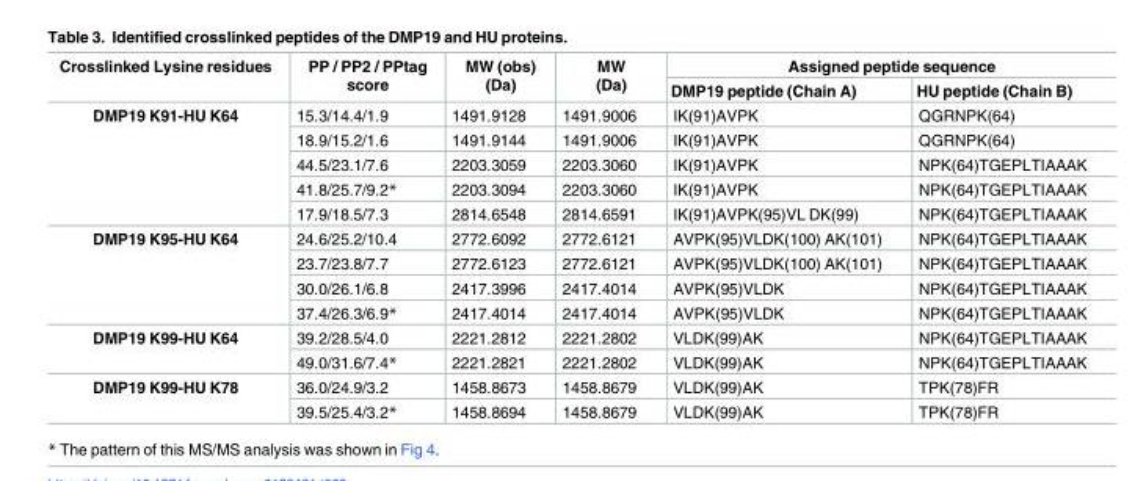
<table><thead><tr><td rowspan="2">Crosslinked Lysine residues</td><td rowspan="2">PP / PP2 / PPtag score</td><td rowspan="2">MW (obs) (Da)</td><td rowspan="2">MW (Da)</td><td colspan="2">Assigned peptide sequence</td></tr><tr><td>DMP19 peptide (Chain A)</td><td>HU peptide (Chain B)</td></tr></thead><tbody><tr><td rowspan="5">DMP19 K91-HU K64</td><td>15.3/14.4/1.9</td><td>1491.9128</td><td>1491.9006</td><td>IK(91)AVPK</td><td>QGRNPK(64)</td></tr><tr><td>18.9/15.2/1.6</td><td>1491.9144</td><td>1491.9006</td><td>IK(91)AVPK</td><td>QGRNPK(64)</td></tr><tr><td>44.5/23.1/7.6</td><td>2203.3059</td><td>2203.3060</td><td>IK(91)AVPK</td><td>NPK(64)TGEPLTIAAAK</td></tr><tr><td>41.8/25.7/9.2*</td><td>2203.3094</td><td>2203.3060</td><td>IK(91)AVPK</td><td>NPK(64)TGEPLTIAAAK</td></tr><tr><td>17.9/18.5/7.3</td><td>2814.6548</td><td>2814.6591</td><td>IK(91)AVPK(95)VL DK(99)</td><td>NPK(64)TGEPLTIAAAK</td></tr><tr><td rowspan="4">DMP19 K95-HU K64</td><td>24.6/25.2/10.4</td><td>2772.6092</td><td>2772.6121</td><td>AVPK(95)VLDK(100) AK(101)</td><td>NPK(64)TGEPLTIAAAK</td></tr><tr><td>23.7/23.8/7.7</td><td>2772.6123</td><td>2772.6121</td><td>AVPK(95)VLDK(100) AK(101)</td><td>NPK(64)TGEPLTIAAAK</td></tr><tr><td>30.0/26.1/6.8</td><td>2417.3996</td><td>2417.4014</td><td>AVPK(95)VLDK</td><td>NPK(64)TGEPLTIAAAK</td></tr><tr><td>37.4/26.3/6.9*</td><td>2417.4014</td><td>2417.4014</td><td>AVPK(95)VLDK</td><td>NPK(64)TGEPLTIAAAK</td></tr><tr><td rowspan="2">DMP19 K99-HU K64</td><td>39.2/28.5/4.0</td><td>2221.2812</td><td>2221.2802</td><td>VLDK(99)AK</td><td>NPK(64)TGEPLTIAAAK</td></tr><tr><td>49.0/31.6/7.4*</td><td>2221.2821</td><td>2221.2802</td><td>VLDK(99)AK</td><td>NPK(64)TGEPLTIAAAK</td></tr><tr><td rowspan="2">DMP19 K99-HU K78</td><td>36.0/24.9/3.2</td><td>1458.8673</td><td>1458.8679</td><td>VLDK(99)AK</td><td>TPK(78)FR</td></tr><tr><td>39.5/25.4/3.2*</td><td>1458.8694</td><td>1458.8679</td><td>VLDK(99)AK</td><td>TPK(78)FR</td></tr></tbody></table>